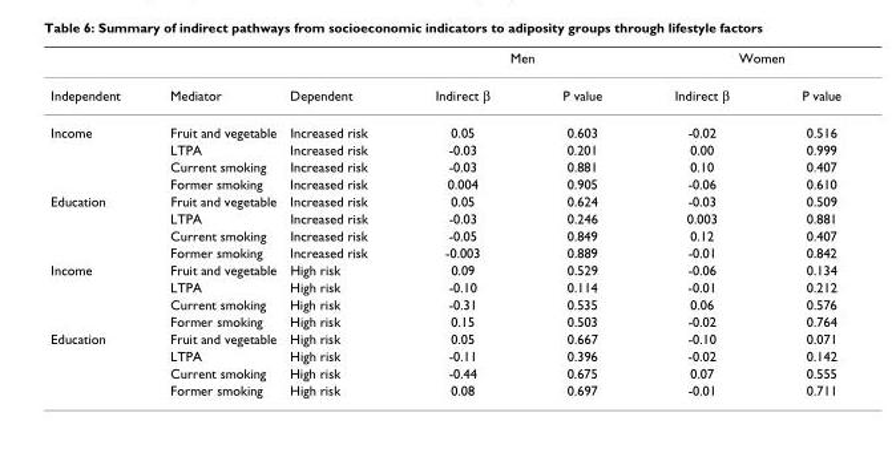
<table><thead><tr><td rowspan="2">Independent</td><td rowspan="2">Mediator</td><td rowspan="2">Dependent</td><td colspan="2">Men</td><td colspan="2">Women</td></tr><tr><td>Indirect β</td><td>P value</td><td>Indirect β</td><td>P value</td></tr></thead><tbody><tr><td rowspan="4">Income</td><td>Fruit and vegetable</td><td>Increased risk</td><td>0.05</td><td>0.603</td><td>-0.02</td><td>0.516</td></tr><tr><td>LTPA</td><td>Increased risk</td><td>-0.03</td><td>0.201</td><td>0.00</td><td>0.999</td></tr><tr><td>Current smoking</td><td>Increased risk</td><td>-0.03</td><td>0.881</td><td>0.10</td><td>0.407</td></tr><tr><td>Former smoking</td><td>Increased risk</td><td>0.004</td><td>0.905</td><td>-0.06</td><td>0.610</td></tr><tr><td rowspan="4">Education</td><td>Fruit and vegetable</td><td>Increased risk</td><td>0.05</td><td>0.624</td><td>-0.03</td><td>0.509</td></tr><tr><td>LTPA</td><td>Increased risk</td><td>-0.03</td><td>0.246</td><td>0.003</td><td>0.881</td></tr><tr><td>Current smoking</td><td>Increased risk</td><td>-0.05</td><td>0.849</td><td>0.12</td><td>0.407</td></tr><tr><td>Former smoking</td><td>Increased risk</td><td>-0.003</td><td>0.889</td><td>-0.01</td><td>0.842</td></tr><tr><td rowspan="4">Income</td><td>Fruit and vegetable</td><td>High risk</td><td>0.09</td><td>0.529</td><td>-0.06</td><td>0.134</td></tr><tr><td>LTPA</td><td>High risk</td><td>-0.10</td><td>0.114</td><td>-0.01</td><td>0.212</td></tr><tr><td>Current smoking</td><td>High risk</td><td>-0.31</td><td>0.535</td><td>0.06</td><td>0.576</td></tr><tr><td>Former smoking</td><td>High risk</td><td>0.15</td><td>0.503</td><td>-0.02</td><td>0.764</td></tr><tr><td rowspan="4">Education</td><td>Fruit and vegetable</td><td>High risk</td><td>0.05</td><td>0.667</td><td>-0.10</td><td>0.071</td></tr><tr><td>LTPA</td><td>High risk</td><td>-0.11</td><td>0.396</td><td>-0.02</td><td>0.142</td></tr><tr><td>Current smoking</td><td>High risk</td><td>-0.44</td><td>0.675</td><td>0.07</td><td>0.555</td></tr><tr><td>Former smoking</td><td>High risk</td><td>0.08</td><td>0.697</td><td>-0.01</td><td>0.711</td></tr></tbody></table>